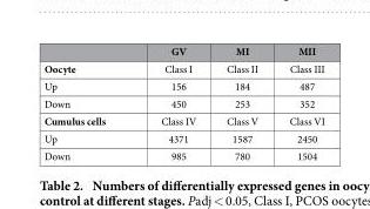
<table><thead><tr><td></td><td>GV</td><td>MI</td><td>MII</td></tr></thead><tbody><tr><td>Oocyte</td><td>Class I</td><td>Class II</td><td>Class III</td></tr><tr><td>Up</td><td>156</td><td>184</td><td>487</td></tr><tr><td>Down</td><td>450</td><td>253</td><td>352</td></tr><tr><td>Cumulus cells</td><td>Class IV</td><td>Class V</td><td>Class VI</td></tr><tr><td>Up</td><td>4371</td><td>1587</td><td>2450</td></tr><tr><td>Down</td><td>985</td><td>780</td><td>1504</td></tr></tbody></table>